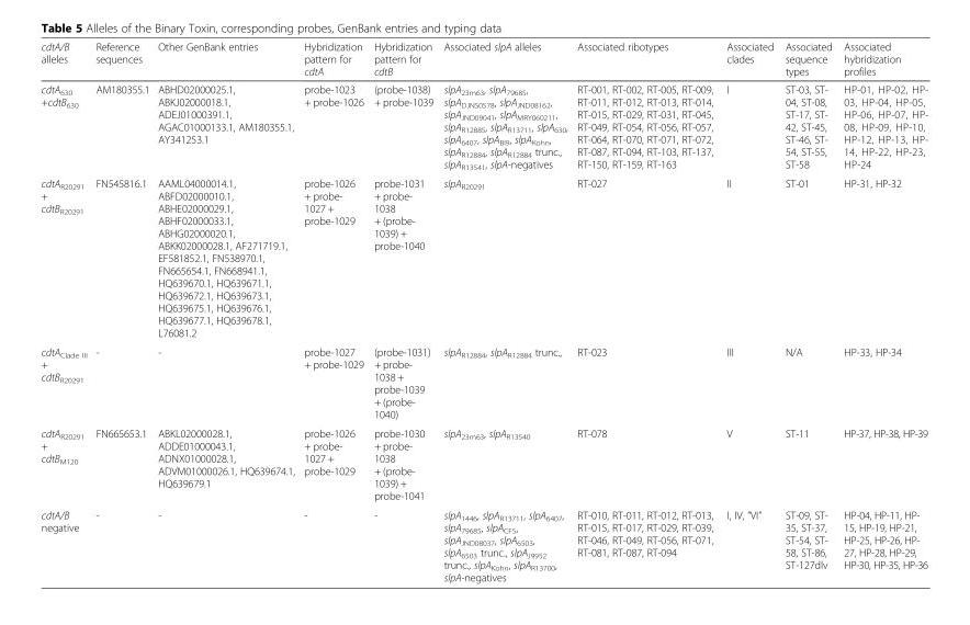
<table><thead><tr><td>cdtA/B alleles</td><td>Reference sequences</td><td>Other GenBank entries</td><td>Hybridization pattern for cdtA</td><td>Hybridization pattern for cdtB</td><td>Associated slpA alleles</td><td>Associated ribotypes</td><td>Associated clades</td><td>Associated sequence types</td><td>Associated hybridization profiles</td></tr></thead><tbody><tr><td>cdtA<sub>630</sub> +cdtB<sub>630</sub></td><td>AM180355.1</td><td>ABHD02000025.1, ABKJ02000018.1, ADEJ01000391.1, AGAC01000133.1, AM180355.1, AY341253.1</td><td>probe-1023 + probe-1026</td><td>(probe-1038) + probe-1039</td><td>slpA23m63, slpA79685, slpADJNS0578, slpAJND08162, slpAJND09041, slpAMRY060211, slpAR12885, slpAR13711, slpA630, slpA6407, slpABI9, slpAKohn, slpAR12884, slpAR12884 trunc., slpAR13541, slpA-negatives</td><td>RT-001, RT-002, RT-005, RT-009, RT-011, RT-012, RT-013, RT-014, RT-015, RT-029, RT-031, RT-045, RT-049, RT-054, RT-056, RT-057, RT-064, RT-070, RT-071, RT-072, RT-087, RT-094, RT-103, RT-137, RT-150, RT-159, RT-163</td><td>I</td><td>ST-03, ST- 04, ST-08, ST-17, ST- 42, ST-45, ST-46, ST- 54, ST-55, ST-58</td><td>HP-01, HP-02, HP- 03, HP-04, HP-05, HP-06, HP-07, HP- 08, HP-09, HP-10, HP-12, HP-13, HP- 14, HP-22, HP-23, HP-24</td></tr><tr><td>cdtA<sub>R20291</sub> + cdtB<sub>R20291</sub></td><td>FN545816.1</td><td>AAML04000014.1, ABFD02000010.1, ABHE02000029.1, ABHF02000033.1, ABHG02000020.1, ABKK02000028.1, AF271719.1, EF581852.1, FN538970.1, FN665654.1, FN668941.1, HQ639670.1, HQ639671.1, HQ639672.1, HQ639673.1, HQ639675.1, HQ639676.1, HQ639677.1, HQ639678.1, L76081.2</td><td>probe-1026 + probe- 1027 + probe-1029</td><td>probe-1031 + probe- 1038 + (probe- 1039) + probe-1040</td><td>slpA<sub>R20291</sub></td><td>RT-027</td><td>II</td><td>ST-01</td><td>HP-31, HP-32</td></tr><tr><td>cdtA<sub>Clade III</sub> + cdtB<sub>R20291</sub></td><td>-</td><td>-</td><td>probe-1027 + probe-1029</td><td>(probe-1031) + probe- 1038 + probe-1039 + (probe- 1040)</td><td>slpA<sub>R12884</sub>, slpA<sub>R12884</sub> trunc.,</td><td>RT-023</td><td>III</td><td>N/A</td><td>HP-33, HP-34</td></tr><tr><td>cdtA<sub>R20291</sub> + cdtB<sub>M120</sub></td><td>FN665653.1</td><td>ABKL02000028.1, ADDE01000043.1, ADNX01000028.1, ADVM01000026.1, HQ639674.1, HQ639679.1</td><td>probe-1026 + probe- 1027 + probe-1029</td><td>probe-1030 + probe- 1038 + (probe- 1039) + probe-1041</td><td>slpA<sub>23m63</sub>, slpA<sub>R13540</sub></td><td>RT-078</td><td>V</td><td>ST-11</td><td>HP-37, HP-38, HP-39</td></tr><tr><td>cdtA/B negative</td><td>-</td><td>-</td><td>-</td><td>-</td><td>slpA<sub>1446</sub>, slpA<sub>R13711</sub>, slpA<sub>6407</sub>, slpA<sub>79685</sub>, slpA<sub>CF5</sub>, slpA<sub>JND08037</sub>, slpA<sub>6503</sub>, slpA<sub>6503</sub> trunc., slpA<sub>J9952</sub> trunc., slpA<sub>Kohn</sub>, slpA<sub>R13700</sub>, slpA-negatives</td><td>RT-010, RT-011, RT-012, RT-013, RT-015, RT-017, RT-029, RT-039, RT-046, RT-049, RT-056, RT-071, RT-081, RT-087, RT-094</td><td>I, IV, ”VI”</td><td>ST-09, ST- 35, ST-37, ST-54, ST- 58, ST-86, ST-127dlv</td><td>HP-04, HP-11, HP- 15, HP-19, HP-21, HP-25, HP-26, HP- 27, HP-28, HP-29, HP-30, HP-35, HP-36</td></tr></tbody></table>